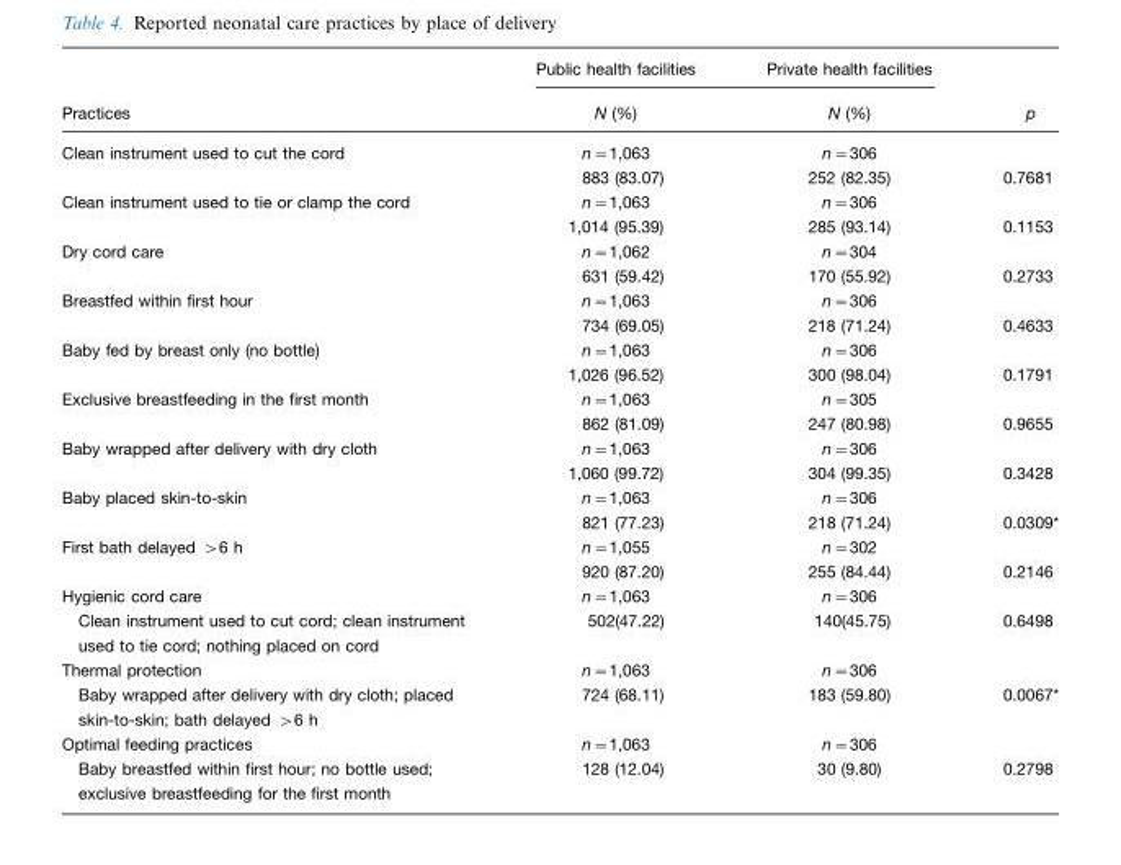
<table><thead><tr><td rowspan="2">Practices</td><td rowspan="2">Public health facilities N (%)</td><td rowspan="2">Private health facilities N (%)</td><td rowspan="2">p</td></tr><tr></tr></thead><tbody><tr><td rowspan="2">Clean instrument used to cut the cord</td><td>n=1,063</td><td>n=306</td><td></td></tr><tr><td>883 (83.07)</td><td>252 (82.35)</td><td>0.7681</td></tr><tr><td rowspan="2">Clean instrument used to tie or clamp the cord</td><td>n=1,063</td><td>n=306</td><td></td></tr><tr><td>1,014 (95.39)</td><td>285 (93.14)</td><td>0.1153</td></tr><tr><td rowspan="2">Dry cord care</td><td>n=1,062</td><td>n=304</td><td></td></tr><tr><td>631 (59.42)</td><td>170 (55.92)</td><td>0.2733</td></tr><tr><td rowspan="2">Breastfed within first hour</td><td>n=1,063</td><td>n=306</td><td></td></tr><tr><td>734 (69.05)</td><td>218 (71.24)</td><td>0.4633</td></tr><tr><td rowspan="2">Baby fed by breast only (no bottle)</td><td>n=1,063</td><td>n=306</td><td></td></tr><tr><td>1,026 (96.52)</td><td>300 (98.04)</td><td>0.1791</td></tr><tr><td rowspan="2">Exclusive breastfeeding in the first month</td><td>n=1,063</td><td>n=305</td><td></td></tr><tr><td>862 (81.09)</td><td>247 (80.98)</td><td>0.9655</td></tr><tr><td rowspan="2">Baby wrapped after delivery with dry cloth</td><td>n=1,063</td><td>n=306</td><td></td></tr><tr><td>1,060 (99.72)</td><td>304 (99.35)</td><td>0.3428</td></tr><tr><td rowspan="2">Baby placed skin-to-skin</td><td>n=1,063</td><td>n=306</td><td></td></tr><tr><td>821 (77.23)</td><td>218 (71.24)</td><td>0.0309*</td></tr><tr><td rowspan="2">First bath delayed &gt;6 h</td><td>n=1,055</td><td>n=302</td><td></td></tr><tr><td>920 (87.20)</td><td>255 (84.44)</td><td>0.2146</td></tr><tr><td>Hygienic cord care</td><td>n=1,063</td><td>n=306</td><td></td></tr><tr><td>Clean instrument used to cut cord; clean instrument used to tie cord; nothing placed on cord</td><td>502(47.22)</td><td>140(45.75)</td><td>0.6498</td></tr><tr><td>Thermal protection</td><td>n=1,063</td><td>n=306</td><td></td></tr><tr><td>Baby wrapped after delivery with dry cloth; placed skin-to-skin; bath delayed &gt;6 h</td><td>724 (68.11)</td><td>183 (59.80)</td><td>0.0067*</td></tr><tr><td>Optimal feeding practices</td><td>n=1,063</td><td>n=306</td><td></td></tr><tr><td>Baby breastfed within first hour; no bottle used; exclusive breastfeeding for the first month</td><td>128 (12.04)</td><td>30 (9.80)</td><td>0.2798</td></tr></tbody></table>